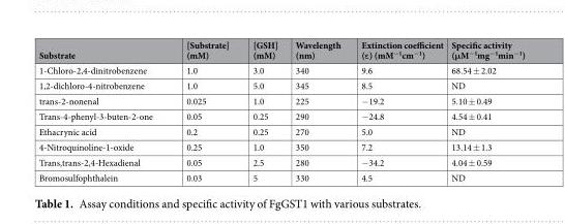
<table><thead><tr><td>Substrate</td><td>[Substrate] (mM)</td><td>[GSH] (mM)</td><td>Wavelength (nm)</td><td>Extinction coefficient (ε) (mM<sup>−1</sup>cm<sup>−1</sup>)</td><td>Specific activity (μM<sup>−1</sup>mg<sup>−1</sup>min<sup>−1</sup>)</td></tr></thead><tbody><tr><td>1-Chloro-2,4-dinitrobenzene</td><td>1.0</td><td>3.0</td><td>340</td><td>9.6</td><td>68.54 ± 2.02</td></tr><tr><td>1,2-dichloro-4-nitrobenzene</td><td>1.0</td><td>5.0</td><td>345</td><td>8.5</td><td>ND</td></tr><tr><td>trans-2-nonenal</td><td>0.025</td><td>1.0</td><td>225</td><td>−19.2</td><td>5.10 ± 0.49</td></tr><tr><td>Trans-4-phenyl-3-buten-2-one</td><td>0.05</td><td>0.25</td><td>290</td><td>−24.8</td><td>4.54 ± 0.41</td></tr><tr><td>Ethacrynic acid</td><td>0.2</td><td>0.25</td><td>270</td><td>5.0</td><td>ND</td></tr><tr><td>4-Nitroquinoline-1-oxide</td><td>0.25</td><td>1.0</td><td>350</td><td>7.2</td><td>13.14 ± 1.3</td></tr><tr><td>Trans,trans-2,4-Hexadienal</td><td>0.05</td><td>2.5</td><td>280</td><td>−34.2</td><td>4.04 ± 0.59</td></tr><tr><td>Bromosulfophthalein</td><td>0.03</td><td>5</td><td>330</td><td>4.5</td><td>ND</td></tr></tbody></table>